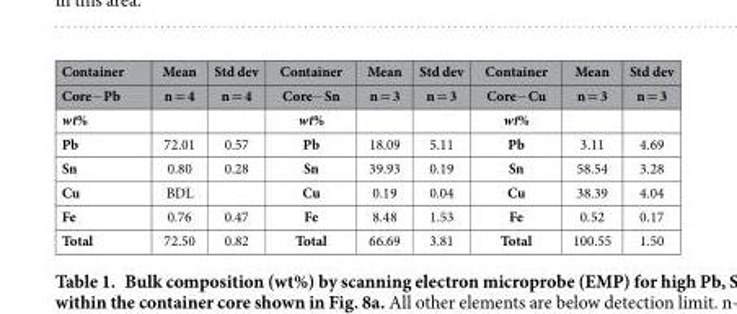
<table><thead><tr><td rowspan="2">Container Core− Pb</td><td rowspan="2">Mean n = 4</td><td rowspan="2">Std dev n = 4</td><td rowspan="2">Container Core− Sn</td><td rowspan="2">Mean n = 3</td><td rowspan="2">Std dev n = 3</td><td rowspan="2">Container Core− Cu</td><td rowspan="2">Mean n = 3</td><td rowspan="2">Std dev n = 3</td></tr><tr></tr></thead><tbody><tr><td>wt%</td><td></td><td></td><td>wt%</td><td></td><td></td><td>wt%</td><td></td><td></td></tr><tr><td>Pb</td><td>72.01</td><td>0.57</td><td>Pb</td><td>18.09</td><td>5.11</td><td>Pb</td><td>3.11</td><td>4.69</td></tr><tr><td>Sn</td><td>0.80</td><td>0.28</td><td>Sn</td><td>39.93</td><td>0.19</td><td>Sn</td><td>58.54</td><td>3.28</td></tr><tr><td>Cu</td><td>BDL</td><td></td><td>Cu</td><td>0.19</td><td>0.04</td><td>Cu</td><td>38.39</td><td>4.04</td></tr><tr><td>Fe</td><td>0.76</td><td>0.47</td><td>Fe</td><td>8.48</td><td>1.53</td><td>Fe</td><td>0.52</td><td>0.17</td></tr><tr><td>Total</td><td>72.50</td><td>0.82</td><td>Total</td><td>66.69</td><td>3.81</td><td>Total</td><td>100.55</td><td>1.50</td></tr></tbody></table>